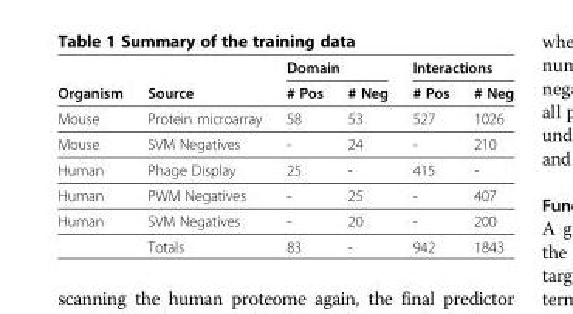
<table><thead><tr><td rowspan="2">Organism</td><td rowspan="2">Source</td><td colspan="2">Domain</td><td colspan="2">Interactions</td></tr><tr><td># Pos</td><td># Neg</td><td># Pos</td><td># Neg</td></tr></thead><tbody><tr><td>Mouse</td><td>Protein microarray</td><td>58</td><td>53</td><td>527</td><td>1026</td></tr><tr><td>Mouse</td><td>SVM Negatives</td><td>-</td><td>24</td><td>-</td><td>210</td></tr><tr><td>Human</td><td>Phage Display</td><td>25</td><td>-</td><td>415</td><td>-</td></tr><tr><td>Human</td><td>PWM Negatives</td><td>-</td><td>25</td><td>-</td><td>407</td></tr><tr><td rowspan="2">Human</td><td>SVM Negatives</td><td>-</td><td>20</td><td>-</td><td>200</td></tr><tr><td>Totals</td><td>83</td><td>-</td><td>942</td><td>1843</td></tr></tbody></table>